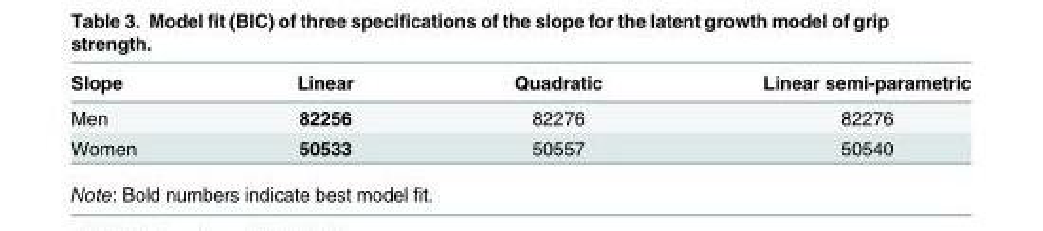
<table><thead><tr><td>Slope</td><td>Linear</td><td>Quadratic</td><td>Linear semi-parametric</td></tr></thead><tbody><tr><td>Men</td><td>82256</td><td>82276</td><td>82276</td></tr><tr><td>Women</td><td>50533</td><td>50557</td><td>50540</td></tr></tbody></table>